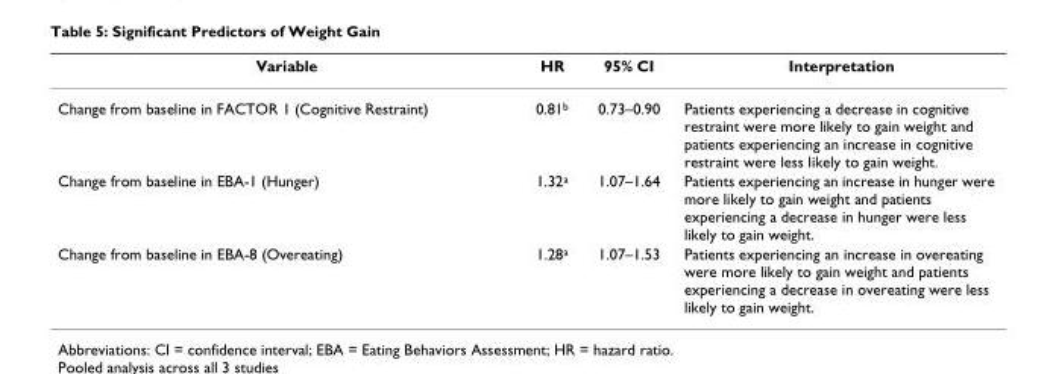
<table><thead><tr><td>Variable</td><td>HR</td><td>95% CI</td><td>Interpretation</td></tr></thead><tbody><tr><td>Change from baseline in FACTOR 1 (Cognitive Restraint)</td><td>0.81<sup>b</sup></td><td>0.73–0.90</td><td>Patients experiencing a decrease in cognitive restraint were more likely to gain weight and patients experiencing an increase in cognitive restraint were less likely to gain weight.</td></tr><tr><td>Change from baseline in EBA-1 (Hunger)</td><td>1.32<sup>a</sup></td><td>1.07–1.64</td><td>Patients experiencing an increase in hunger were more likely to gain weight and patients experiencing a decrease in hunger were less likely to gain weight.</td></tr><tr><td>Change from baseline in EBA-8 (Overeating)</td><td>1.28<sup>a</sup></td><td>1.07–1.53</td><td>Patients experiencing an increase in overeating were more likely to gain weight and patients experiencing a decrease in overeating were less likely to gain weight.</td></tr></tbody></table>